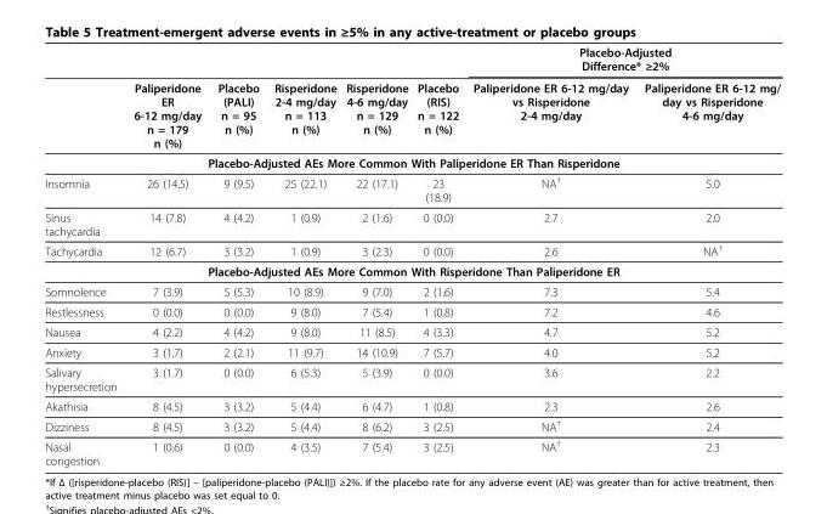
<table><thead><tr><td rowspan="2"></td><td rowspan="2">Paliperidone ER 6-12 mg/day n = 179 n (%)</td><td rowspan="2">Placebo (PALI) n = 95 n (%)</td><td rowspan="2">Risperidone 2-4 mg/day n = 113 n (%)</td><td rowspan="2">Risperidone 4-6 mg/day n = 129 n (%)</td><td rowspan="2">Placebo (RIS) n = 122 n (%)</td><td colspan="2">Placebo-Adjusted Difference* ≥2%</td></tr><tr><td>Paliperidone ER 6-12 mg/day vs Risperidone 2-4 mg/day</td><td>Paliperidone ER 6-12 mg/ day vs Risperidone 4-6 mg/day</td></tr></thead><tbody><tr><td colspan="8">Placebo-Adjusted AEs More Common With Paliperidone ER Than Risperidone</td></tr><tr><td>Insomnia</td><td>26 (14.5)</td><td>9 (9.5)</td><td>25 (22.1)</td><td>22 (17.1)</td><td>23 (18.9)</td><td>NA<sup>†</sup></td><td>5.0</td></tr><tr><td>Sinus tachycardia</td><td>14 (7.8)</td><td>4 (4.2)</td><td>1 (0.9)</td><td>2 (1.6)</td><td>0 (0.0)</td><td>2.7</td><td>2.0</td></tr><tr><td>Tachycardia</td><td>12 (6.7)</td><td>3 (3.2)</td><td>1 (0.9)</td><td>3 (2.3)</td><td>0 (0.0)</td><td>2.6</td><td>NA<sup>†</sup></td></tr><tr><td colspan="8">Placebo-Adjusted AEs More Common With Risperidone Than Paliperidone ER</td></tr><tr><td>Somnolence</td><td>7 (3.9)</td><td>5 (5.3)</td><td>10 (8.9)</td><td>9 (7.0)</td><td>2 (1.6)</td><td>7.3</td><td>5.4</td></tr><tr><td>Restlessness</td><td>0 (0.0)</td><td>0 (0.0)</td><td>9 (8.0)</td><td>7 (5.4)</td><td>1 (0.8)</td><td>7.2</td><td>4.6</td></tr><tr><td>Nausea</td><td>4 (2.2)</td><td>4 (4.2)</td><td>9 (8.0)</td><td>11 (8.5)</td><td>4 (3.3)</td><td>4.7</td><td>5.2</td></tr><tr><td>Anxiety</td><td>3 (1.7)</td><td>2 (2.1)</td><td>11 (9.7)</td><td>14 (10.9)</td><td>7 (5.7)</td><td>4.0</td><td>5.2</td></tr><tr><td>Salivary hypersecretion</td><td>3 (1.7)</td><td>0 (0.0)</td><td>6 (5.3)</td><td>5 (3.9)</td><td>0 (0.0)</td><td>3.6</td><td>2.2</td></tr><tr><td>Akathisia</td><td>8 (4.5)</td><td>3 (3.2)</td><td>5 (4.4)</td><td>6 (4.7)</td><td>1 (0.8)</td><td>2.3</td><td>2.6</td></tr><tr><td>Dizziness</td><td>8 (4.5)</td><td>3 (3.2)</td><td>5 (4.4)</td><td>8 (6.2)</td><td>3 (2.5)</td><td>NA<sup>†</sup></td><td>2.4</td></tr><tr><td>Nasal congestion</td><td>1 (0.6)</td><td>0 (0.0)</td><td>4 (3.5)</td><td>7 (5.4)</td><td>3 (2.5)</td><td>NA<sup>†</sup></td><td>2.3</td></tr></tbody></table>